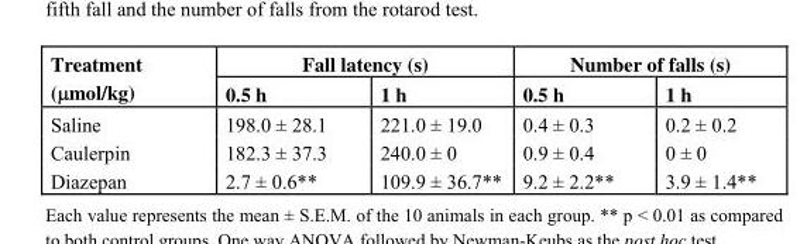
<table><thead><tr><td rowspan="2">Treatment (μmol/kg)</td><td colspan="2">Fall latency (s)</td><td colspan="2">Number of falls (s)</td></tr><tr><td>0.5 h</td><td>1 h</td><td>0.5 h</td><td>1 h</td></tr></thead><tbody><tr><td>Saline</td><td>198.0 ± 28.1</td><td>221.0 ± 19.0</td><td>0.4 ± 0.3</td><td>0.2 ± 0.2</td></tr><tr><td>Caulerpin</td><td>182.3 ± 37.3</td><td>240.0 ± 0</td><td>0.9 ± 0.4</td><td>0 ± 0</td></tr><tr><td>Diazepan</td><td>2.7 ± 0.6**</td><td>109.9 ± 36.7**</td><td>9.2 ± 2.2**</td><td>3.9 ± 1.4**</td></tr></tbody></table>